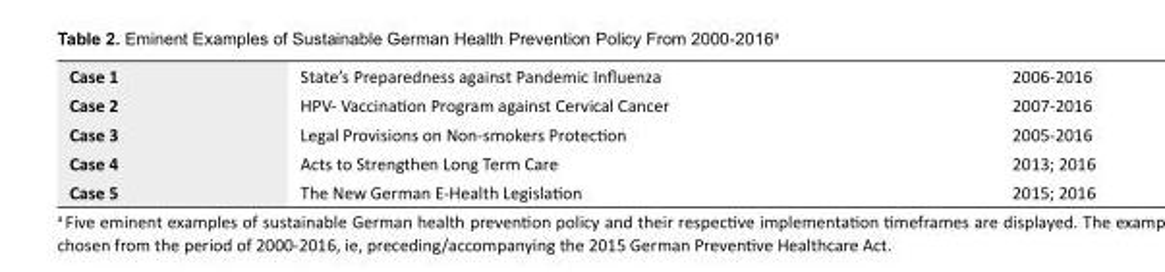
<table><tbody><tr><td>Case 1</td><td>State’s Preparedness against Pandemic Influenza</td><td>2006-2016</td></tr><tr><td>Case 2</td><td>HPV- Vaccination Program against Cervical Cancer</td><td>2007-2016</td></tr><tr><td>Case 3</td><td>Legal Provisions on Non-smokers Protection</td><td>2005-2016</td></tr><tr><td>Case 4</td><td>Acts to Strengthen Long Term Care</td><td>2013; 2016</td></tr><tr><td>Case 5</td><td>The New German E-Health Legislation</td><td>2015; 2016</td></tr></tbody></table>